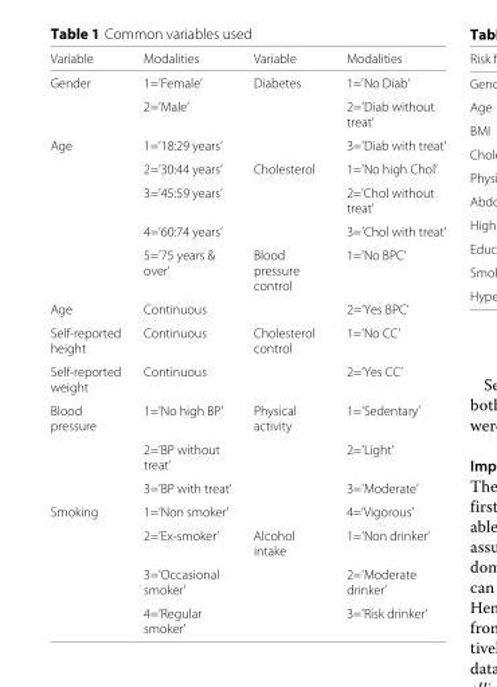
<table><thead><tr><td>Variable</td><td>Modalities</td><td>Variable</td><td>Modalities</td></tr></thead><tbody><tr><td rowspan="2">Gender</td><td>1=’Female’</td><td>Diabetes</td><td>1=’No Diab’</td></tr><tr><td>2=’Male’</td><td></td><td>2=’Diab without treat’</td></tr><tr><td rowspan="5">Age</td><td>1=’18:29 years’</td><td></td><td>3=’Diab with treat’</td></tr><tr><td>2=’30:44 years’</td><td>Cholesterol</td><td>1=’No high Chol’</td></tr><tr><td>3=’45:59 years’</td><td></td><td>2=’Chol without treat’</td></tr><tr><td>4=’60:74 years’</td><td></td><td>3=’Chol with treat’</td></tr><tr><td>5=’75 years &amp; over’</td><td>Blood pressure control</td><td>1=’No BPC’</td></tr><tr><td>Age</td><td>Continuous</td><td></td><td>2=’Yes BPC’</td></tr><tr><td>Self-reported height</td><td>Continuous</td><td>Cholesterol control</td><td>1=’No CC’</td></tr><tr><td>Self-reported weight</td><td>Continuous</td><td></td><td>2=’Yes CC’</td></tr><tr><td rowspan="3">Blood pressure</td><td>1=’No high BP’</td><td>Physical activity</td><td>1=’Sedentary’</td></tr><tr><td>2=’BP without treat’</td><td></td><td>2=’Light’</td></tr><tr><td>3=’BP with treat’</td><td></td><td>3=’Moderate’</td></tr><tr><td rowspan="4">Smoking</td><td>1=’Non smoker’</td><td></td><td>4=’Vigorous’</td></tr><tr><td>2=’Ex-smoker’</td><td>Alcohol intake</td><td>1=’Non drinker’</td></tr><tr><td>3=’Occasional smoker’</td><td></td><td>2=’Moderate drinker’</td></tr><tr><td>4=’Regular smoker’</td><td></td><td>3=’Risk drinker’</td></tr></tbody></table>